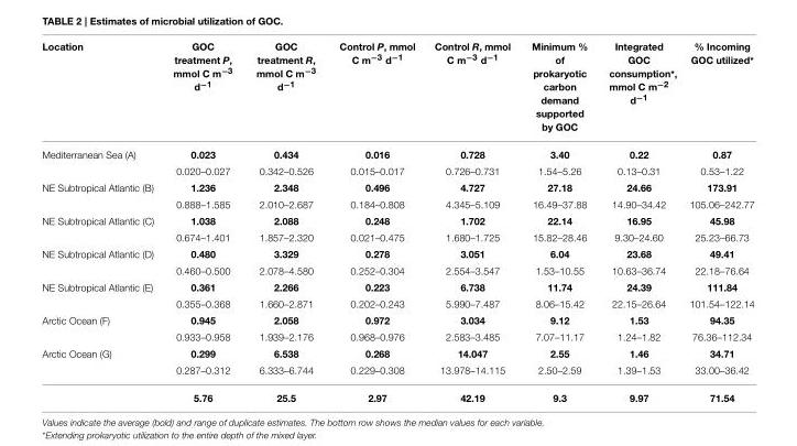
<table><thead><tr><td>Location</td><td>GOC treatment P, mmol C m<sup>−3</sup> d<sup>−1</sup></td><td>GOC treatment R, mmol C m<sup>−3</sup> d<sup>−1</sup></td><td>Control P, mmol C m<sup>−3</sup> d<sup>−1</sup></td><td>Control R, mmol C m<sup>−3</sup> d<sup>−1</sup></td><td>Minimum % of prokaryotic carbon demand supported by GOC</td><td>Integrated GOC consumption*, mmol C m<sup>−2</sup> d<sup>−1</sup></td><td>% Incoming GOC utilized*</td></tr></thead><tbody><tr><td rowspan="2">Mediterranean Sea (A)</td><td>0.023</td><td>0.434</td><td>0.016</td><td>0.728</td><td>3.40</td><td>0.22</td><td>0.87</td></tr><tr><td>0.020–0.027</td><td>0.342–0.526</td><td>0.015–0.017</td><td>0.726–0.731</td><td>1.54–5.26</td><td>0.13–0.31</td><td>0.53–1.22</td></tr><tr><td rowspan="2">NE Subtropical Atlantic (B)</td><td>1.236</td><td>2.348</td><td>0.496</td><td>4.727</td><td>27.18</td><td>24.66</td><td>173.91</td></tr><tr><td>0.888–1.585</td><td>2.010–2.687</td><td>0.184–0.808</td><td>4.345–5.109</td><td>16.49–37.88</td><td>14.90–34.42</td><td>105.06–242.77</td></tr><tr><td rowspan="2">NE Subtropical Atlantic (C)</td><td>1.038</td><td>2.088</td><td>0.248</td><td>1.702</td><td>22.14</td><td>16.95</td><td>45.98</td></tr><tr><td>0.674–1.401</td><td>1.857–2.320</td><td>0.021–0.475</td><td>1.680–1.725</td><td>15.82–28.46</td><td>9.30–24.60</td><td>25.23–66.73</td></tr><tr><td rowspan="2">NE Subtropical Atlantic (D)</td><td>0.480</td><td>3.329</td><td>0.278</td><td>3.051</td><td>6.04</td><td>23.68</td><td>49.41</td></tr><tr><td>0.460–0.500</td><td>2.078–4.580</td><td>0.252–0.304</td><td>2.554–3.547</td><td>1.53–10.55</td><td>10.63–36.74</td><td>22.18–76.64</td></tr><tr><td rowspan="2">NE Subtropical Atlantic (E)</td><td>0.361</td><td>2.266</td><td>0.223</td><td>6.738</td><td>11.74</td><td>24.39</td><td>111.84</td></tr><tr><td>0.355–0.368</td><td>1.660–2.871</td><td>0.202–0.243</td><td>5.990–7.487</td><td>8.06–15.42</td><td>22.15–26.64</td><td>101.54–122.14</td></tr><tr><td rowspan="2">Arctic Ocean (F)</td><td>0.945</td><td>2.058</td><td>0.972</td><td>3.034</td><td>9.12</td><td>1.53</td><td>94.35</td></tr><tr><td>0.933–0.958</td><td>1.939–2.176</td><td>0.968–0.976</td><td>2.583–3.485</td><td>7.07–11.17</td><td>1.24–1.82</td><td>76.36–112.34</td></tr><tr><td rowspan="3">Arctic Ocean (G)</td><td>0.299</td><td>6.538</td><td>0.268</td><td>14.047</td><td>2.55</td><td>1.46</td><td>34.71</td></tr><tr><td>0.287–0.312</td><td>6.333–6.744</td><td>0.229–0.308</td><td>13.978–14.115</td><td>2.50–2.59</td><td>1.39–1.53</td><td>33.00–36.42</td></tr><tr><td>5.76</td><td>25.5</td><td>2.97</td><td>42.19</td><td>9.3</td><td>9.97</td><td>71.54</td></tr></tbody></table>